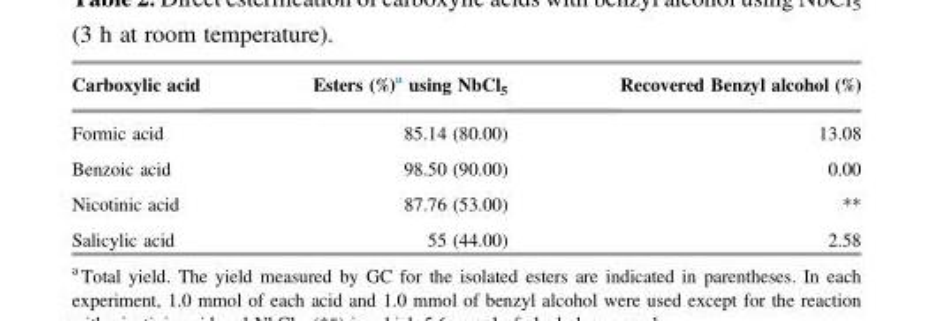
<table><thead><tr><td>Carboxylic acid</td><td>Esters (%)<sup>a</sup> using NbCl<sub>5</sub></td><td>Recovered Benzyl alcohol (%)</td></tr></thead><tbody><tr><td>Formic acid</td><td>85.14 (80.00)</td><td>13.08</td></tr><tr><td>Benzoic acid</td><td>98.50 (90.00)</td><td>0.00</td></tr><tr><td>Nicotinic acid</td><td>87.76 (53.00)</td><td>**</td></tr><tr><td>Salicylic acid</td><td>55 (44.00)</td><td>2.58</td></tr></tbody></table>